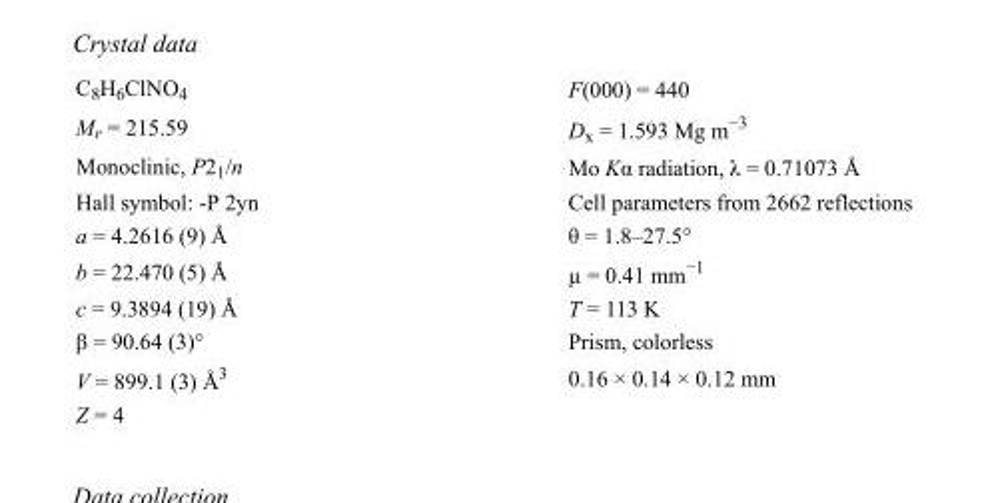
<table><tbody><tr><td>C<sub>8</sub>H<sub>6</sub>ClNO<sub>4</sub></td><td>F(000) = 440</td></tr><tr><td>M<sub>r</sub> = 215.59</td><td>D<sub>x</sub> = 1.593 Mg m<sup>−3</sup></td></tr><tr><td>Monoclinic, P2<sub>1</sub>/n</td><td>Mo Kα radiation, λ = 0.71073 Å</td></tr><tr><td>Hall symbol: -P 2yn</td><td>Cell parameters from 2662 reflections</td></tr><tr><td>a = 4.2616 (9) Å</td><td>θ = 1.8–27.5°</td></tr><tr><td>b = 22.470 (5) Å</td><td>µ = 0.41 mm<sup>−1</sup></td></tr><tr><td>c = 9.3894 (19) Å</td><td>T = 113 K</td></tr><tr><td>β = 90.64 (3)°</td><td>Prism, colorless</td></tr><tr><td>V = 899.1 (3) Å<sup>3</sup></td><td>0.16 × 0.14 × 0.12 mm</td></tr><tr><td>Z = 4</td><td></td></tr></tbody></table>